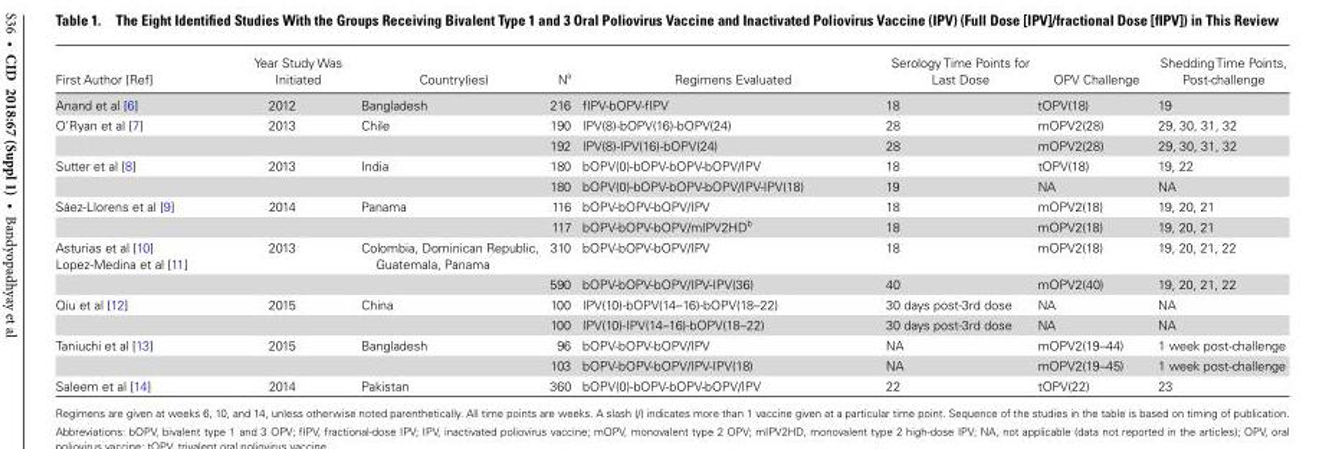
<table><thead><tr><td>First Author [Ref]</td><td>Year Study Was Initiated</td><td>Country(ies)</td><td>N<sup>a</sup></td><td>Regimens Evaluated</td><td>Serology Time Points for Last Dose</td><td>OPV Challenge</td><td>Shedding Time Points, Post-challenge</td></tr></thead><tbody><tr><td>Anand et al [6]</td><td>2012</td><td>Bangladesh</td><td>216</td><td>fIPV-bOPV-fIPV</td><td>18</td><td>tOPV(18)</td><td>19</td></tr><tr><td rowspan="2">O’Ryan et al [7]</td><td>2013</td><td>Chile</td><td>190</td><td>IPV(8)-bOPV(16)-bOPV(24)</td><td>28</td><td>mOPV2(28)</td><td>29, 30, 31, 32</td></tr><tr><td></td><td></td><td>192</td><td>IPV(8)-IPV(16)-bOPV(24)</td><td>28</td><td>mOPV2(28)</td><td>29, 30, 31, 32</td></tr><tr><td rowspan="2">Sutter et al [8]</td><td>2013</td><td>India</td><td>180</td><td>bOPV(0)-bOPV-bOPV-bOPV/IPV</td><td>18</td><td>tOPV(18)</td><td>19, 22</td></tr><tr><td></td><td></td><td>180</td><td>bOPV(0)-bOPV-bOPV-bOPV/IPV-IPV(18)</td><td>19</td><td>NA</td><td>NA</td></tr><tr><td rowspan="2">Sáez-Llorens et al [9]</td><td>2014</td><td>Panama</td><td>116</td><td>bOPV-bOPV-bOPV/IPV</td><td>18</td><td>mOPV2(18)</td><td>19, 20, 21</td></tr><tr><td></td><td></td><td>117</td><td>bOPV-bOPV-bOPV/mIPV2HD<sup>b</sup></td><td>18</td><td>mOPV2(18)</td><td>19, 20, 21</td></tr><tr><td rowspan="2">Asturias et al [10] Lopez-Medina et al [11]</td><td>2013</td><td>Colombia, Dominican Republic, Guatemala, Panama</td><td>310</td><td>bOPV-bOPV-bOPV/IPV</td><td>18</td><td>mOPV2(18)</td><td>19, 20, 21, 22</td></tr><tr><td></td><td></td><td>590</td><td>bOPV-bOPV-bOPV/IPV-IPV(36)</td><td>40</td><td>mOPV2(40)</td><td>19, 20, 21, 22</td></tr><tr><td rowspan="2">Qiu et al [12]</td><td>2015</td><td>China</td><td>100</td><td>IPV(10)-bOPV(14–16)-bOPV(18–22)</td><td>30 days post-3rd dose</td><td>NA</td><td>NA</td></tr><tr><td></td><td></td><td>100</td><td>IPV(10)-IPV(14–16)-bOPV(18–22)</td><td>30 days post-3rd dose</td><td>NA</td><td>NA</td></tr><tr><td rowspan="2">Taniuchi et al [13]</td><td>2015</td><td>Bangladesh</td><td>96</td><td>bOPV-bOPV-bOPV/IPV</td><td>NA</td><td>mOPV2(19–44)</td><td>1 week post-challenge</td></tr><tr><td></td><td></td><td>103</td><td>bOPV-bOPV-bOPV/IPV-IPV(18)</td><td>NA</td><td>mOPV2(19–45)</td><td>1 week post-challenge</td></tr><tr><td>Saleem et al [14]</td><td>2014</td><td>Pakistan</td><td>360</td><td>bOPV(0)-bOPV-bOPV-bOPV/IPV</td><td>22</td><td>tOPV(22)</td><td>23</td></tr></tbody></table>